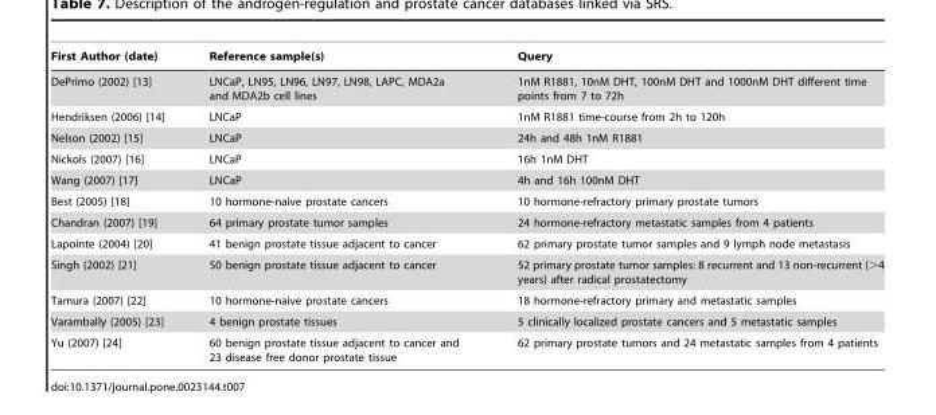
<table><thead><tr><td>First Author (date)</td><td>Reference sample(s)</td><td>Query</td></tr></thead><tbody><tr><td>DePrimo (2002) [13]</td><td>LNCaP, LN95, LN96, LN97, LN98, LAPC, MDA2a and MDA2b cell lines</td><td>1nM R1881, 10nM DHT, 100nM DHT and 1000nM DHT different time points from 7 to 72h</td></tr><tr><td>Hendriksen (2006) [14]</td><td>LNCaP</td><td>1nM R1881 time-course from 2h to 120h</td></tr><tr><td>Nelson (2002) [15]</td><td>LNCaP</td><td>24h and 48h 1nM R1881</td></tr><tr><td>Nickols (2007) [16]</td><td>LNCaP</td><td>16h 1nM DHT</td></tr><tr><td>Wang (2007) [17]</td><td>LNCaP</td><td>4h and 16h 100nM DHT</td></tr><tr><td>Best (2005) [18]</td><td>10 hormone-naive prostate cancers</td><td>10 hormone-refractory primary prostate tumors</td></tr><tr><td>Chandran (2007) [19]</td><td>64 primary prostate tumor samples</td><td>24 hormone-refractory metastatic samples from 4 patients</td></tr><tr><td>Lapointe (2004) [20]</td><td>41 benign prostate tissue adjacent to cancer</td><td>62 primary prostate tumor samples and 9 lymph node metastasis</td></tr><tr><td>Singh (2002) [21]</td><td>50 benign prostate tissue adjacent to cancer</td><td>52 primary prostate tumor samples: 8 recurrent and 13 non-recurrent (&gt;4 years) after radical prostatectomy</td></tr><tr><td>Tamura (2007) [22]</td><td>10 hormone-naive prostate cancers</td><td>18 hormone-refractory primary and metastatic samples</td></tr><tr><td>Varambally (2005) [23]</td><td>4 benign prostate tissues</td><td>5 clinically localized prostate cancers and 5 metastatic samples</td></tr><tr><td>Yu (2007) [24]</td><td>60 benign prostate tissue adjacent to cancer and 23 disease free donor prostate tissue</td><td>62 primary prostate tumors and 24 metastatic samples from 4 patients</td></tr></tbody></table>